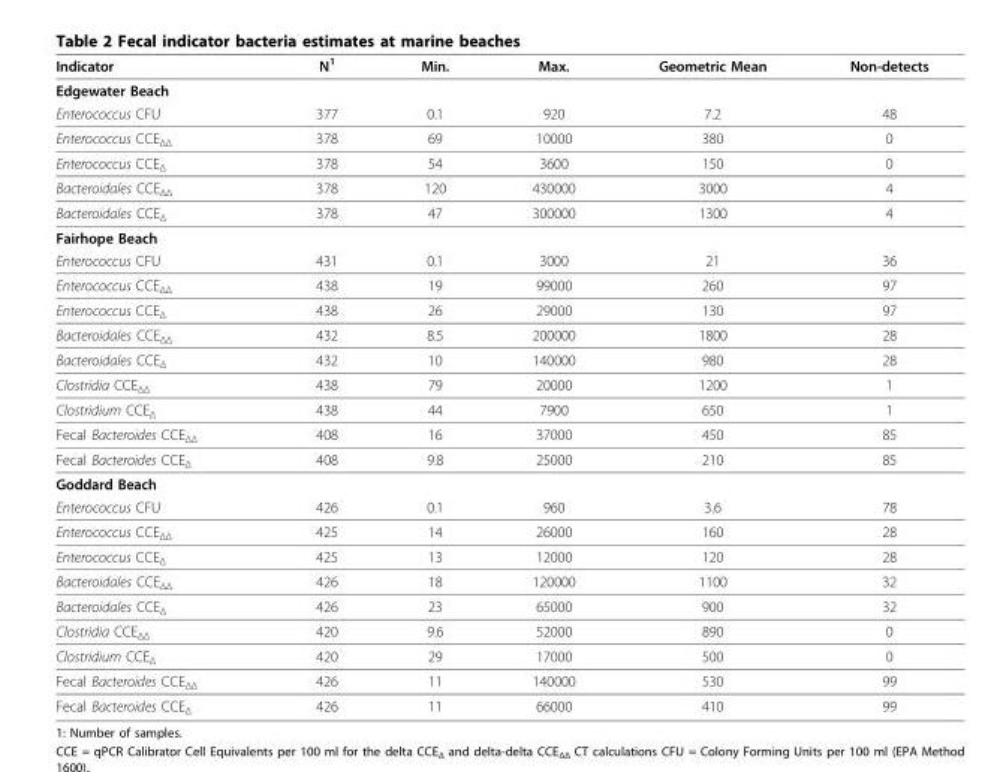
<table><thead><tr><td>Indicator</td><td>N<sup>1</sup></td><td>Min.</td><td>Max.</td><td>Geometric Mean</td><td>Non-detects</td></tr></thead><tbody><tr><td colspan="6">Edgewater Beach</td></tr><tr><td>Enterococcus CFU</td><td>377</td><td>0.1</td><td>920</td><td>7.2</td><td>48</td></tr><tr><td>Enterococcus CCE<sub>ΔΔ</sub></td><td>378</td><td>69</td><td>10000</td><td>380</td><td>0</td></tr><tr><td>Enterococcus CCE<sub>Δ</sub></td><td>378</td><td>54</td><td>3600</td><td>150</td><td>0</td></tr><tr><td>Bacteroidales CCE<sub>ΔΔ</sub></td><td>378</td><td>120</td><td>430000</td><td>3000</td><td>4</td></tr><tr><td>Bacteroidales CCE<sub>Δ</sub></td><td>378</td><td>47</td><td>300000</td><td>1300</td><td>4</td></tr><tr><td colspan="6">Fairhope Beach</td></tr><tr><td>Enterococcus CFU</td><td>431</td><td>0.1</td><td>3000</td><td>21</td><td>36</td></tr><tr><td>Enterococcus CCE<sub>ΔΔ</sub></td><td>438</td><td>19</td><td>99000</td><td>260</td><td>97</td></tr><tr><td>Enterococcus CCE<sub>Δ</sub></td><td>438</td><td>26</td><td>29000</td><td>130</td><td>97</td></tr><tr><td>Bacteroidales CCE<sub>ΔΔ</sub></td><td>432</td><td>8.5</td><td>200000</td><td>1800</td><td>28</td></tr><tr><td>Bacteroidales CCE<sub>Δ</sub></td><td>432</td><td>10</td><td>140000</td><td>980</td><td>28</td></tr><tr><td>Clostridia CCE<sub>ΔΔ</sub></td><td>438</td><td>79</td><td>20000</td><td>1200</td><td>1</td></tr><tr><td>Clostridium CCE<sub>Δ</sub></td><td>438</td><td>44</td><td>7900</td><td>650</td><td>1</td></tr><tr><td>Fecal Bacteroides CCE<sub>ΔΔ</sub></td><td>408</td><td>16</td><td>37000</td><td>450</td><td>85</td></tr><tr><td>Fecal Bacteroides CCE<sub>Δ</sub></td><td>408</td><td>9.8</td><td>25000</td><td>210</td><td>85</td></tr><tr><td colspan="6">Goddard Beach</td></tr><tr><td>Enterococcus CFU</td><td>426</td><td>0.1</td><td>960</td><td>3.6</td><td>78</td></tr><tr><td>Enterococcus CCE<sub>ΔΔ</sub></td><td>425</td><td>14</td><td>26000</td><td>160</td><td>28</td></tr><tr><td>Enterococcus CCE<sub>Δ</sub></td><td>425</td><td>13</td><td>12000</td><td>120</td><td>28</td></tr><tr><td>Bacteroidales CCE<sub>ΔΔ</sub></td><td>426</td><td>18</td><td>120000</td><td>1100</td><td>32</td></tr><tr><td>Bacteroidales CCE<sub>Δ</sub></td><td>426</td><td>23</td><td>65000</td><td>900</td><td>32</td></tr><tr><td>Clostridia CCE<sub>ΔΔ</sub></td><td>420</td><td>9.6</td><td>52000</td><td>890</td><td>0</td></tr><tr><td>Clostridium CCE<sub>Δ</sub></td><td>420</td><td>29</td><td>17000</td><td>500</td><td>0</td></tr><tr><td>Fecal Bacteroides CCE<sub>ΔΔ</sub></td><td>426</td><td>11</td><td>140000</td><td>530</td><td>99</td></tr><tr><td>Fecal Bacteroides CCE<sub>Δ</sub></td><td>426</td><td>11</td><td>66000</td><td>410</td><td>99</td></tr></tbody></table>